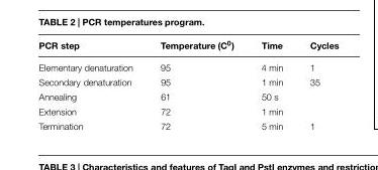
<table><thead><tr><td>PCR step</td><td>Temperature (C<sup>0</sup>)</td><td>Time</td><td>Cycles</td></tr></thead><tbody><tr><td>Elementary denaturation</td><td>95</td><td>4 min</td><td>1</td></tr><tr><td>Secondary denaturation</td><td>95</td><td>1 min</td><td>35</td></tr><tr><td>Annealing</td><td>61</td><td>50 s</td><td></td></tr><tr><td>Extension</td><td>72</td><td>1 min</td><td></td></tr><tr><td>Termination</td><td>72</td><td>5 min</td><td>1</td></tr></tbody></table>